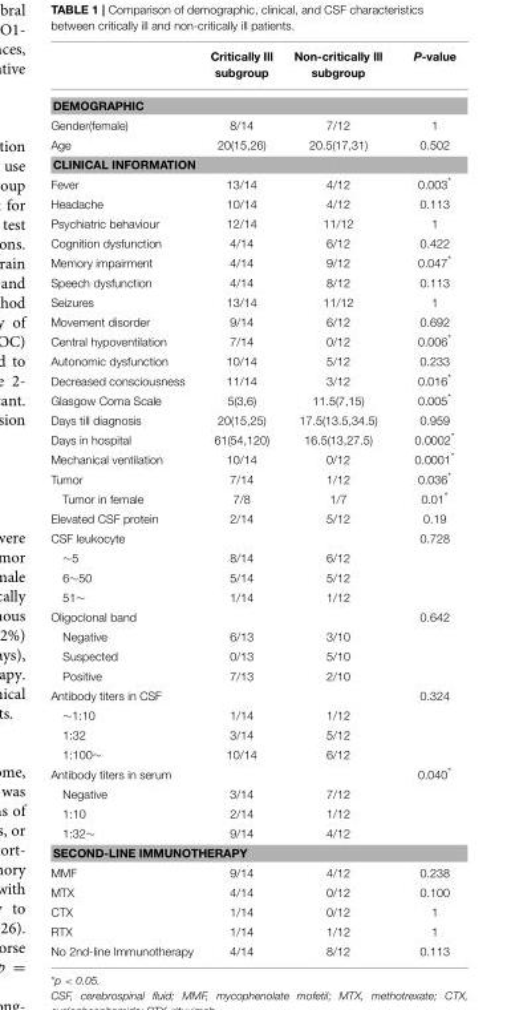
<table><thead><tr><td></td><td>Critically Ill subgroup</td><td>Non-critically Ill subgroup</td><td>P-value</td></tr></thead><tbody><tr><td colspan="4">DEMOGRAPHIC</td></tr><tr><td>Gender(female)</td><td>8/14</td><td>7/12</td><td>1</td></tr><tr><td>Age</td><td>20(15,26)</td><td>20.5(17,31)</td><td>0.502</td></tr><tr><td colspan="4">CLINICAL INFORMATION</td></tr><tr><td>Fever</td><td>13/14</td><td>4/12</td><td>0.003*</td></tr><tr><td>Headache</td><td>10/14</td><td>4/12</td><td>0.113</td></tr><tr><td>Psychiatric behaviour</td><td>12/14</td><td>11/12</td><td>1</td></tr><tr><td>Cognition dysfunction</td><td>4/14</td><td>6/12</td><td>0.422</td></tr><tr><td>Memory impairment</td><td>4/14</td><td>9/12</td><td>0.047*</td></tr><tr><td>Speech dysfunction</td><td>4/14</td><td>8/12</td><td>0.113</td></tr><tr><td>Seizures</td><td>13/14</td><td>11/12</td><td>1</td></tr><tr><td>Movement disorder</td><td>9/14</td><td>6/12</td><td>0.692</td></tr><tr><td>Central hypoventilation</td><td>7/14</td><td>0/12</td><td>0.006*</td></tr><tr><td>Autonomic dysfunction</td><td>10/14</td><td>5/12</td><td>0.233</td></tr><tr><td>Decreased consciousness</td><td>11/14</td><td>3/12</td><td>0.016*</td></tr><tr><td>Glasgow Coma Scale</td><td>5(3,6)</td><td>11.5(7,15)</td><td>0.005*</td></tr><tr><td>Days till diagnosis</td><td>20(15,25)</td><td>17.5(13.5,34.5)</td><td>0.959</td></tr><tr><td>Days in hospital</td><td>61(54,120)</td><td>16.5(13,27.5)</td><td>0.0002*</td></tr><tr><td>Mechanical ventilation</td><td>10/14</td><td>0/12</td><td>0.0001*</td></tr><tr><td>Tumor</td><td>7/14</td><td>1/12</td><td>0.036*</td></tr><tr><td>Tumor in female</td><td>7/8</td><td>1/7</td><td>0.01*</td></tr><tr><td>Elevated CSF protein</td><td>2/14</td><td>5/12</td><td>0.19</td></tr><tr><td>CSF leukocyte</td><td></td><td></td><td>0.728</td></tr><tr><td>∼5</td><td>8/14</td><td>6/12</td><td></td></tr><tr><td>6∼50</td><td>5/14</td><td>5/12</td><td></td></tr><tr><td>51∼</td><td>1/14</td><td>1/12</td><td></td></tr><tr><td>Oligoclonal band</td><td></td><td></td><td>0.642</td></tr><tr><td>Negative</td><td>6/13</td><td>3/10</td><td></td></tr><tr><td>Suspected</td><td>0/13</td><td>5/10</td><td></td></tr><tr><td>Positive</td><td>7/13</td><td>2/10</td><td></td></tr><tr><td>Antibody titers in CSF</td><td></td><td></td><td>0.324</td></tr><tr><td>∼1:10</td><td>1/14</td><td>1/12</td><td></td></tr><tr><td>1:32</td><td>3/14</td><td>5/12</td><td></td></tr><tr><td>1:100∼</td><td>10/14</td><td>6/12</td><td></td></tr><tr><td>Antibody titers in serum</td><td></td><td></td><td>0.040*</td></tr><tr><td>Negative</td><td>3/14</td><td>7/12</td><td></td></tr><tr><td>1:10</td><td>2/14</td><td>1/12</td><td></td></tr><tr><td>1:32∼</td><td>9/14</td><td>4/12</td><td></td></tr><tr><td colspan="4">SECOND-LINE IMMUNOTHERAPY</td></tr><tr><td>MMF</td><td>9/14</td><td>4/12</td><td>0.238</td></tr><tr><td>MTX</td><td>4/14</td><td>0/12</td><td>0.100</td></tr><tr><td>CTX</td><td>1/14</td><td>0/12</td><td>1</td></tr><tr><td>RTX</td><td>1/14</td><td>1/12</td><td>1</td></tr><tr><td>No 2nd-line Immunotherapy</td><td>4/14</td><td>8/12</td><td>0.113</td></tr></tbody></table>